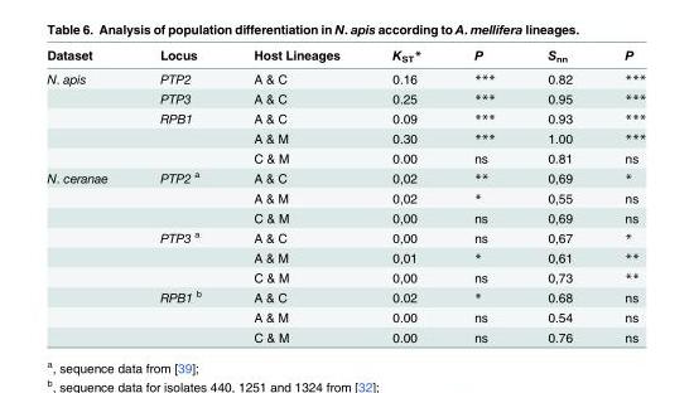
<table><thead><tr><td>Dataset</td><td>Locus</td><td>Host Lineages</td><td>K<sub>ST</sub>*</td><td>P</td><td>S<sub>nn</sub></td><td>P</td></tr></thead><tbody><tr><td rowspan="5">N. apis</td><td>PTP2</td><td>A &amp; C</td><td>0.16</td><td>***</td><td>0.82</td><td>***</td></tr><tr><td>PTP3</td><td>A &amp; C</td><td>0.25</td><td>***</td><td>0.95</td><td>***</td></tr><tr><td>RPB1</td><td>A &amp; C</td><td>0.09</td><td>***</td><td>0.93</td><td>***</td></tr><tr><td></td><td>A &amp; M</td><td>0.30</td><td>***</td><td>1.00</td><td>***</td></tr><tr><td></td><td>C &amp; M</td><td>0.00</td><td>ns</td><td>0.81</td><td>ns</td></tr><tr><td rowspan="9">N. ceranae</td><td>PTP2 <sup>a</sup></td><td>A &amp; C</td><td>0,02</td><td>**</td><td>0,69</td><td>*</td></tr><tr><td></td><td>A &amp; M</td><td>0,02</td><td>*</td><td>0,55</td><td>ns</td></tr><tr><td></td><td>C &amp; M</td><td>0,00</td><td>ns</td><td>0,69</td><td>ns</td></tr><tr><td>PTP3 <sup>a</sup></td><td>A &amp; C</td><td>0,00</td><td>ns</td><td>0,67</td><td>*</td></tr><tr><td></td><td>A &amp; M</td><td>0,01</td><td>*</td><td>0,61</td><td>**</td></tr><tr><td></td><td>C &amp; M</td><td>0,00</td><td>ns</td><td>0,73</td><td>**</td></tr><tr><td>RPB1 <sup>b</sup></td><td>A &amp; C</td><td>0.02</td><td>*</td><td>0.68</td><td>ns</td></tr><tr><td></td><td>A &amp; M</td><td>0.00</td><td>ns</td><td>0.54</td><td>ns</td></tr><tr><td></td><td>C &amp; M</td><td>0.00</td><td>ns</td><td>0.76</td><td>ns</td></tr></tbody></table>